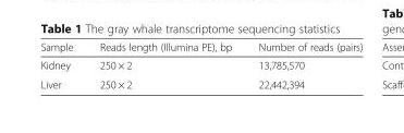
<table><thead><tr><td>Sample</td><td>Reads length (Illumina PE), bp</td><td>Number of reads (pairs)</td></tr></thead><tbody><tr><td>Kidney</td><td>250 × 2</td><td>13,785,570</td></tr><tr><td>Liver</td><td>250 × 2</td><td>22,442,394</td></tr></tbody></table>